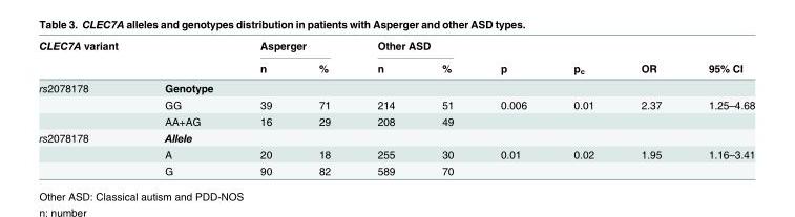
<table><thead><tr><td rowspan="2">CLEC7A variant</td><td rowspan="2"></td><td colspan="2">Asperger</td><td colspan="2">Other ASD</td><td rowspan="2">p</td><td rowspan="2">p<sub>c</sub></td><td rowspan="2">OR</td><td rowspan="2">95% CI</td></tr><tr><td>n</td><td>%</td><td>n</td><td>%</td></tr></thead><tbody><tr><td rowspan="3">rs2078178</td><td>Genotype</td><td></td><td></td><td></td><td></td><td></td><td></td><td></td><td></td></tr><tr><td>GG</td><td>39</td><td>71</td><td>214</td><td>51</td><td>0.006</td><td>0.01</td><td>2.37</td><td>1.25–4.68</td></tr><tr><td>AA+AG</td><td>16</td><td>29</td><td>208</td><td>49</td><td></td><td></td><td></td><td></td></tr><tr><td rowspan="3">rs2078178</td><td>Allele</td><td></td><td></td><td></td><td></td><td></td><td></td><td></td><td></td></tr><tr><td>A</td><td>20</td><td>18</td><td>255</td><td>30</td><td>0.01</td><td>0.02</td><td>1.95</td><td>1.16–3.41</td></tr><tr><td>G</td><td>90</td><td>82</td><td>589</td><td>70</td><td></td><td></td><td></td><td></td></tr></tbody></table>